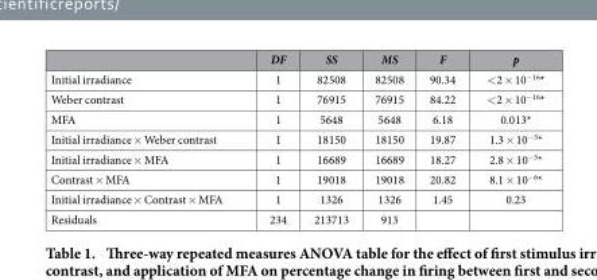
<table><thead><tr><td></td><td>DF</td><td>SS</td><td>MS</td><td>F</td><td>p</td></tr></thead><tbody><tr><td>Initial irradiance</td><td>1</td><td>82508</td><td>82508</td><td>90.34</td><td>&lt; 2 × 10<sup>−16</sup>*</td></tr><tr><td>Weber contrast</td><td>1</td><td>76915</td><td>76915</td><td>84.22</td><td>&lt; 2 × 10<sup>−16</sup>*</td></tr><tr><td>MFA</td><td>1</td><td>5648</td><td>5648</td><td>6.18</td><td>0.013*</td></tr><tr><td>Initial irradiance × Weber contrast</td><td>1</td><td>18150</td><td>18150</td><td>19.87</td><td>1.3 × 10<sup>−5</sup>*</td></tr><tr><td>Initial irradiance × MFA</td><td>1</td><td>16689</td><td>16689</td><td>18.27</td><td>2.8 × 10<sup>−5</sup>*</td></tr><tr><td>Contrast × MFA</td><td>1</td><td>19018</td><td>19018</td><td>20.82</td><td>8.1 × 10<sup>−6</sup>*</td></tr><tr><td>Initial irradiance × Contrast × MFA</td><td>1</td><td>1326</td><td>1326</td><td>1.45</td><td>0.23</td></tr><tr><td>Residuals</td><td>234</td><td>213713</td><td>913</td><td></td><td></td></tr></tbody></table>